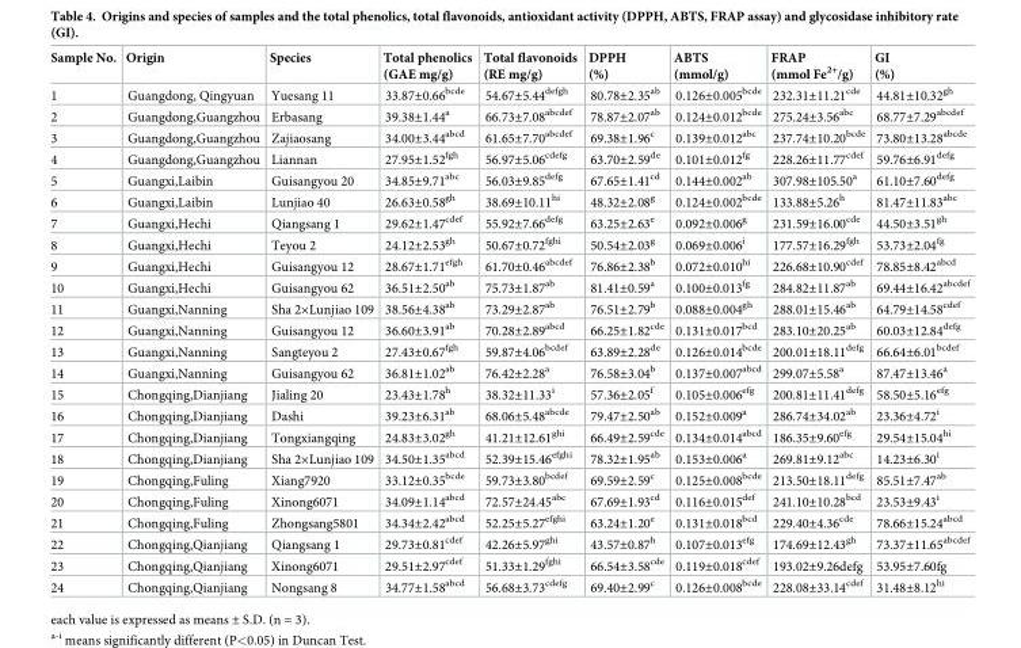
<table><thead><tr><td>Sample No.</td><td>Origin</td><td>Species</td><td>Total phenolics (GAE mg/g)</td><td>Total flavonoids (RE mg/g)</td><td>DPPH (%)</td><td>ABTS (mmol/g)</td><td>FRAP (mmol Fe<sup>2+</sup>/g)</td><td>GI (%)</td></tr></thead><tbody><tr><td>1</td><td>Guangdong, Qingyuan</td><td>Yuesang 11</td><td>33.87±0.66<sup>bcde</sup></td><td>54.67±5.44<sup>defgh</sup></td><td>80.78±2.35<sup>ab</sup></td><td>0.126±0.005<sup>bcde</sup></td><td>232.31±11.21<sup>cde</sup></td><td>44.81±10.32<sup>gh</sup></td></tr><tr><td>2</td><td>Guangdong,Guangzhou</td><td>Erbasang</td><td>39.38±1.44<sup>a</sup></td><td>66.73±7.08<sup>abcdef</sup></td><td>78.87±2.07<sup>ab</sup></td><td>0.124±0.012<sup>bcde</sup></td><td>275.24±3.56<sup>abc</sup></td><td>68.77±7.29<sup>abcdef</sup></td></tr><tr><td>3</td><td>Guangdong,Guangzhou</td><td>Zajiaosang</td><td>34.00±3.44<sup>abcd</sup></td><td>61.65±7.70<sup>abcdef</sup></td><td>69.38±1.96<sup>c</sup></td><td>0.139±0.012<sup>abc</sup></td><td>237.74±10.20<sup>bcde</sup></td><td>73.80±13.28<sup>abcde</sup></td></tr><tr><td>4</td><td>Guangdong,Guangzhou</td><td>Liannan</td><td>27.95±1.52<sup>fgh</sup></td><td>56.97±5.06<sup>cdefg</sup></td><td>63.70±2.59<sup>de</sup></td><td>0.101±0.012<sup>fg</sup></td><td>228.26±11.77<sup>cdef</sup></td><td>59.76±6.91<sup>defg</sup></td></tr><tr><td>5</td><td>Guangxi,Laibin</td><td>Guisangyou 20</td><td>34.85±9.71<sup>abc</sup></td><td>56.03±9.85<sup>defg</sup></td><td>67.65±1.41<sup>cd</sup></td><td>0.144±0.002<sup>ab</sup></td><td>307.98±105.50<sup>a</sup></td><td>61.10±7.60<sup>defg</sup></td></tr><tr><td>6</td><td>Guangxi,Laibin</td><td>Lunjiao 40</td><td>26.63±0.58<sup>gh</sup></td><td>38.69±10.11<sup>hi</sup></td><td>48.32±2.08<sup>g</sup></td><td>0.124±0.002<sup>bcde</sup></td><td>133.88±5.26<sup>h</sup></td><td>81.47±11.83<sup>abc</sup></td></tr><tr><td>7</td><td>Guangxi,Hechi</td><td>Qiangsang 1</td><td>29.62±1.47<sup>cdef</sup></td><td>55.92±7.66<sup>defg</sup></td><td>63.25±2.63<sup>e</sup></td><td>0.092±0.006<sup>g</sup></td><td>231.59±16.00<sup>cde</sup></td><td>44.50±3.51<sup>gh</sup></td></tr><tr><td>8</td><td>Guangxi,Hechi</td><td>Teyou 2</td><td>24.12±2.53<sup>gh</sup></td><td>50.67±0.72<sup>fghi</sup></td><td>50.54±2.03<sup>g</sup></td><td>0.069±0.006<sup>i</sup></td><td>177.57±16.29<sup>fgh</sup></td><td>53.73±2.04<sup>fg</sup></td></tr><tr><td>9</td><td>Guangxi,Hechi</td><td>Guisangyou 12</td><td>28.67±1.71<sup>efgh</sup></td><td>61.70±0.46<sup>abcdef</sup></td><td>76.86±2.38<sup>b</sup></td><td>0.072±0.010<sup>hi</sup></td><td>226.68±10.90<sup>cdef</sup></td><td>78.85±8.42<sup>abcd</sup></td></tr><tr><td>10</td><td>Guangxi,Hechi</td><td>Guisangyou 62</td><td>36.51±2.50<sup>ab</sup></td><td>75.73±1.87<sup>ab</sup></td><td>81.41±0.59<sup>a</sup></td><td>0.100±0.013<sup>fg</sup></td><td>284.82±11.87<sup>ab</sup></td><td>69.44±16.42<sup>abcdef</sup></td></tr><tr><td>11</td><td>Guangxi,Nanning</td><td>Sha 2×Lunjiao 109</td><td>38.56±4.38<sup>ab</sup></td><td>73.29±2.87<sup>ab</sup></td><td>76.51±2.79<sup>b</sup></td><td>0.088±0.004<sup>gh</sup></td><td>288.01±15.46<sup>ab</sup></td><td>64.79±14.58<sup>cdef</sup></td></tr><tr><td>12</td><td>Guangxi,Nanning</td><td>Guisangyou 12</td><td>36.60±3.91<sup>ab</sup></td><td>70.28±2.89<sup>abcd</sup></td><td>66.25±1.82<sup>cde</sup></td><td>0.131±0.017<sup>bcd</sup></td><td>283.10±20.25<sup>ab</sup></td><td>60.03±12.84<sup>defg</sup></td></tr><tr><td>13</td><td>Guangxi,Nanning</td><td>Sangteyou 2</td><td>27.43±0.67<sup>fgh</sup></td><td>59.87±4.06<sup>bcdef</sup></td><td>63.89±2.28<sup>de</sup></td><td>0.126±0.014<sup>bcde</sup></td><td>200.01±18.11<sup>defg</sup></td><td>66.64±6.01<sup>bcdef</sup></td></tr><tr><td>14</td><td>Guangxi,Nanning</td><td>Guisangyou 62</td><td>36.81±1.02<sup>ab</sup></td><td>76.42±2.28<sup>a</sup></td><td>76.58±3.04<sup>b</sup></td><td>0.137±0.007<sup>abcd</sup></td><td>299.07±5.58<sup>a</sup></td><td>87.47±13.46<sup>a</sup></td></tr><tr><td>15</td><td>Chongqing,Dianjiang</td><td>Jialing 20</td><td>23.43±1.78<sup>h</sup></td><td>38.32±11.33<sup>i</sup></td><td>57.36±2.05<sup>f</sup></td><td>0.105±0.006<sup>efg</sup></td><td>200.81±11.41<sup>defg</sup></td><td>58.50±5.16<sup>efg</sup></td></tr><tr><td>16</td><td>Chongqing,Dianjiang</td><td>Dashi</td><td>39.23±6.31<sup>ab</sup></td><td>68.06±5.48<sup>abcde</sup></td><td>79.47±2.50<sup>ab</sup></td><td>0.152±0.009<sup>a</sup></td><td>286.74±34.02<sup>ab</sup></td><td>23.36±4.72<sup>i</sup></td></tr><tr><td>17</td><td>Chongqing,Dianjiang</td><td>Tongxiangqing</td><td>24.83±3.02<sup>gh</sup></td><td>41.21±12.61<sup>ghi</sup></td><td>66.49±2.59<sup>cde</sup></td><td>0.134±0.014<sup>abcd</sup></td><td>186.35±9.60<sup>efg</sup></td><td>29.54±15.04<sup>hi</sup></td></tr><tr><td>18</td><td>Chongqing,Dianjiang</td><td>Sha 2×Lunjiao 109</td><td>34.50±1.35<sup>abcd</sup></td><td>52.39±15.46<sup>efghi</sup></td><td>78.32±1.95<sup>ab</sup></td><td>0.153±0.006<sup>a</sup></td><td>269.81±9.12<sup>abc</sup></td><td>14.23±6.30<sup>i</sup></td></tr><tr><td>19</td><td>Chongqing,Fuling</td><td>Xiang7920</td><td>33.12±0.35<sup>bcde</sup></td><td>59.73±3.80<sup>bcdef</sup></td><td>69.59±2.59<sup>c</sup></td><td>0.125±0.008<sup>bcde</sup></td><td>213.50±18.11<sup>defg</sup></td><td>85.51±7.47<sup>ab</sup></td></tr><tr><td>20</td><td>Chongqing,Fuling</td><td>Xinong6071</td><td>34.09±1.14<sup>abcd</sup></td><td>72.57±24.45<sup>abc</sup></td><td>67.69±1.93<sup>cd</sup></td><td>0.116±0.015<sup>def</sup></td><td>241.10±10.28<sup>bcd</sup></td><td>23.53±9.43<sup>i</sup></td></tr><tr><td>21</td><td>Chongqing,Fuling</td><td>Zhongsang5801</td><td>34.34±2.42<sup>abcd</sup></td><td>52.25±5.27<sup>efghi</sup></td><td>63.24±1.20<sup>e</sup></td><td>0.131±0.018<sup>bcd</sup></td><td>229.40±4.36<sup>cde</sup></td><td>78.66±15.24<sup>abcd</sup></td></tr><tr><td>22</td><td>Chongqing,Qianjiang</td><td>Qiangsang 1</td><td>29.73±0.81<sup>cdef</sup></td><td>42.26±5.97<sup>ghi</sup></td><td>43.57±0.87<sup>h</sup></td><td>0.107±0.013<sup>efg</sup></td><td>174.69±12.43<sup>gh</sup></td><td>73.37±11.65<sup>abcdef</sup></td></tr><tr><td>23</td><td>Chongqing,Qianjiang</td><td>Xinong6071</td><td>29.51±2.97<sup>cdef</sup></td><td>51.33±1.29<sup>fghi</sup></td><td>66.54±3.58<sup>cde</sup></td><td>0.119±0.018<sup>cdef</sup></td><td>193.02±9.26<sup>defg</sup></td><td>53.95±7.60<sup>fg</sup></td></tr><tr><td>24</td><td>Chongqing,Qianjiang</td><td>Nongsang 8</td><td>34.77±1.58<sup>abcd</sup></td><td>56.68±3.73<sup>cdefg</sup></td><td>69.40±2.99<sup>c</sup></td><td>0.126±0.008<sup>bcde</sup></td><td>228.08±33.14<sup>cdef</sup></td><td>31.48±8.12<sup>hi</sup></td></tr></tbody></table>